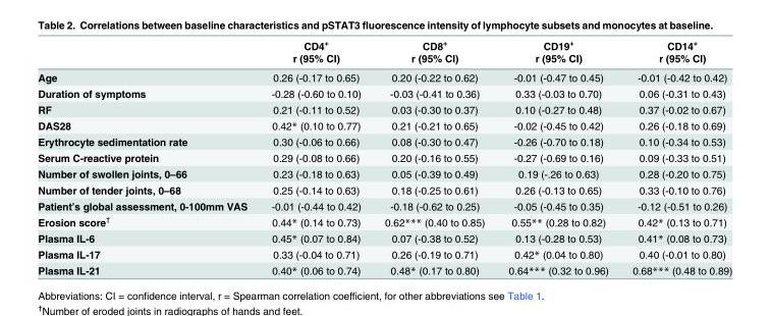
<table><thead><tr><td rowspan="2"></td><td rowspan="2">CD4<sup>+</sup> r (95% CI)</td><td rowspan="2">CD8<sup>+</sup> r (95% CI)</td><td rowspan="2">CD19<sup>+</sup> r (95% CI)</td><td rowspan="2">CD14<sup>+</sup> r (95% CI)</td></tr><tr></tr></thead><tbody><tr><td>Age</td><td>0.26 (-0.17 to 0.65)</td><td>0.20 (-0.22 to 0.62)</td><td>-0.01 (-0.47 to 0.45)</td><td>-0.01 (-0.42 to 0.42)</td></tr><tr><td>Duration of symptoms</td><td>-0.28 (-0.60 to 0.10)</td><td>-0.03 (-0.41 to 0.36)</td><td>0.33 (-0.03 to 0.70)</td><td>0.06 (-0.31 to 0.43)</td></tr><tr><td>RF</td><td>0.21 (-0.11 to 0.52)</td><td>0.03 (-0.30 to 0.37)</td><td>0.10 (-0.27 to 0.48)</td><td>0.37 (-0.02 to 0.67)</td></tr><tr><td>DAS28</td><td>0.42* (0.10 to 0.77)</td><td>0.21 (-0.21 to 0.65)</td><td>-0.02 (-0.45 to 0.42)</td><td>0.26 (-0.18 to 0.69)</td></tr><tr><td>Erythrocyte sedimentation rate</td><td>0.30 (-0.06 to 0.66)</td><td>0.08 (-0.30 to 0.47)</td><td>-0.26 (-0.70 to 0.18)</td><td>0.10 (-0.34 to 0.53)</td></tr><tr><td>Serum C-reactive protein</td><td>0.29 (-0.08 to 0.66)</td><td>0.20 (-0.16 to 0.55)</td><td>-0.27 (-0.69 to 0.16)</td><td>0.09 (-0.33 to 0.51)</td></tr><tr><td>Number of swollen joints, 0–66</td><td>0.23 (-0.18 to 0.63)</td><td>0.05 (-0.39 to 0.49)</td><td>0.19 (-.26 to 0.63)</td><td>0.28 (-0.20 to 0.75)</td></tr><tr><td>Number of tender joints, 0–68</td><td>0.25 (-0.14 to 0.63)</td><td>0.18 (-0.25 to 0.61)</td><td>0.26 (-0.13 to 0.65)</td><td>0.33 (-0.10 to 0.76)</td></tr><tr><td>Patient’s global assessment, 0-100mm VAS</td><td>-0.01 (-0.44 to 0.42)</td><td>-0.18 (-0.62 to 0.25)</td><td>-0.05 (-0.45 to 0.35)</td><td>-0.12 (-0.51 to 0.26)</td></tr><tr><td>Erosion score<sup>†</sup></td><td>0.44* (0.14 to 0.73)</td><td>0.62*** (0.40 to 0.85)</td><td>0.55** (0.28 to 0.82)</td><td>0.42* (0.13 to 0.71)</td></tr><tr><td>Plasma IL-6</td><td>0.45* (0.07 to 0.84)</td><td>0.07 (-0.38 to 0.52)</td><td>0.13 (-0.28 to 0.53)</td><td>0.41* (0.08 to 0.73)</td></tr><tr><td>Plasma IL-17</td><td>0.33 (-0.04 to 0.71)</td><td>0.26 (-0.19 to 0.71)</td><td>0.42* (0.04 to 0.80)</td><td>0.40 (-0.01 to 0.80)</td></tr><tr><td>Plasma IL-21</td><td>0.40* (0.06 to 0.74)</td><td>0.48* (0.17 to 0.80)</td><td>0.64*** (0.32 to 0.96)</td><td>0.68*** (0.48 to 0.89)</td></tr></tbody></table>